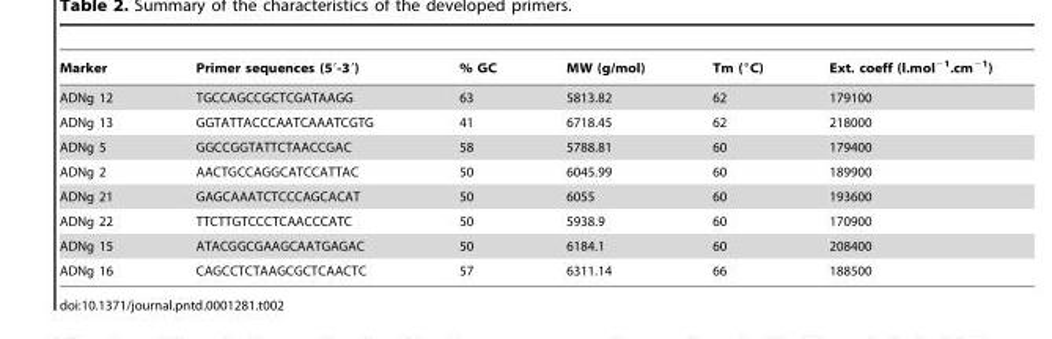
<table><thead><tr><td>Marker</td><td>Primer sequences (5′-3′)</td><td>% GC</td><td>MW (g/mol)</td><td>Tm (°C)</td><td>Ext. coeff (l.mol<sup>−1</sup>.cm<sup>−1</sup>)</td></tr></thead><tbody><tr><td>ADNg 12</td><td>TGCCAGCCGCTCGATAAGG</td><td>63</td><td>5813.82</td><td>62</td><td>179100</td></tr><tr><td>ADNg 13</td><td>GGTATTACCCAATCAAATCGTG</td><td>41</td><td>6718.45</td><td>62</td><td>218000</td></tr><tr><td>ADNg 5</td><td>GGCCGGTATTCTAACCGAC</td><td>58</td><td>5788.81</td><td>60</td><td>179400</td></tr><tr><td>ADNg 2</td><td>AACTGCCAGGCATCCATTAC</td><td>50</td><td>6045.99</td><td>60</td><td>189900</td></tr><tr><td>ADNg 21</td><td>GAGCAAATCTCCCAGCACAT</td><td>50</td><td>6055</td><td>60</td><td>193600</td></tr><tr><td>ADNg 22</td><td>TTCTTGTCCCTCAACCCATC</td><td>50</td><td>5938.9</td><td>60</td><td>170900</td></tr><tr><td>ADNg 15</td><td>ATACGGCGAAGCAATGAGAC</td><td>50</td><td>6184.1</td><td>60</td><td>208400</td></tr><tr><td>ADNg 16</td><td>CAGCCTCTAAGCGCTCAACTC</td><td>57</td><td>6311.14</td><td>66</td><td>188500</td></tr></tbody></table>